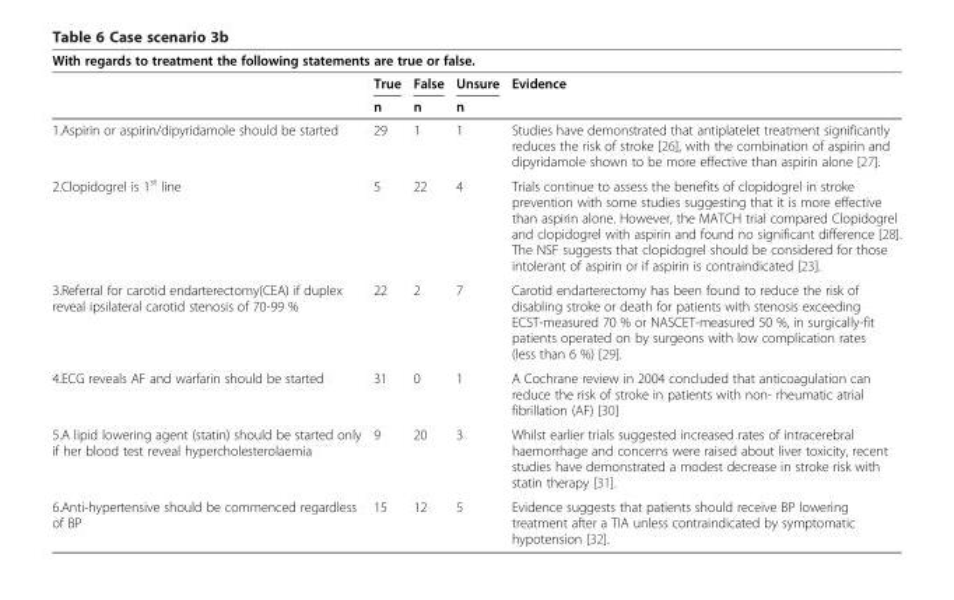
<table><thead><tr><td colspan="5">With regards to treatment the following statements are true or false.</td></tr><tr><td rowspan="2"></td><td rowspan="2">True n</td><td rowspan="2">False n</td><td rowspan="2">Unsure n</td><td rowspan="2">Evidence</td></tr><tr></tr></thead><tbody><tr><td>1.Aspirin or aspirin/dipyridamole should be started</td><td>29</td><td>1</td><td>1</td><td>Studies have demonstrated that antiplatelet treatment significantly reduces the risk of stroke [26], with the combination of aspirin and dipyridamole shown to be more effective than aspirin alone [27].</td></tr><tr><td>2.Clopidogrel is 1<sup>st</sup> line</td><td>5</td><td>22</td><td>4</td><td>Trials continue to assess the benefits of clopidogrel in stroke prevention with some studies suggesting that it is more effective than aspirin alone. However, the MATCH trial compared Clopidogrel and clopidogrel with aspirin and found no significant difference [28]. The NSF suggests that clopidogrel should be considered for those intolerant of aspirin or if aspirin is contraindicated [23].</td></tr><tr><td>3.Referral for carotid endarterectomy(CEA) if duplex reveal ipsilateral carotid stenosis of 70-99 %</td><td>22</td><td>2</td><td>7</td><td>Carotid endarterectomy has been found to reduce the risk of disabling stroke or death for patients with stenosis exceeding ECST-measured 70 % or NASCET-measured 50 %, in surgically-fit patients operated on by surgeons with low complication rates (less than 6 %) [29].</td></tr><tr><td>4.ECG reveals AF and warfarin should be started</td><td>31</td><td>0</td><td>1</td><td>A Cochrane review in 2004 concluded that anticoagulation can reduce the risk of stroke in patients with non- rheumatic atrial fibrillation (AF) [30]</td></tr><tr><td>5.A lipid lowering agent (statin) should be started only if her blood test reveal hypercholesterolaemia</td><td>9</td><td>20</td><td>3</td><td>Whilst earlier trials suggested increased rates of intracerebral haemorrhage and concerns were raised about liver toxicity, recent studies have demonstrated a modest decrease in stroke risk with statin therapy [31].</td></tr><tr><td>6.Anti-hypertensive should be commenced regardless of BP</td><td>15</td><td>12</td><td>5</td><td>Evidence suggests that patients should receive BP lowering treatment after a TIA unless contraindicated by symptomatic hypotension [32].</td></tr></tbody></table>